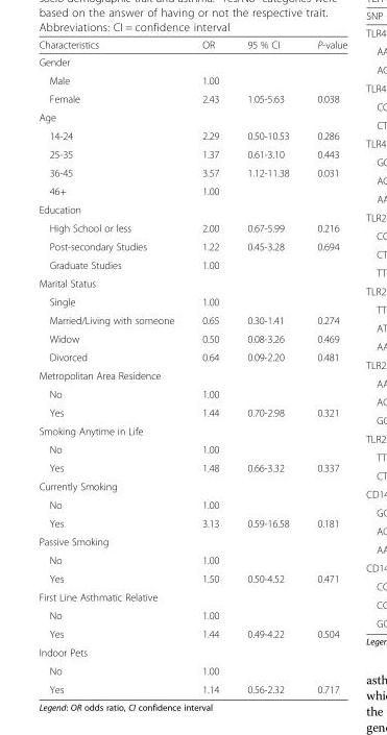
<table><thead><tr><td>Characteristics</td><td>OR</td><td>95 % CI</td><td>P-value</td></tr></thead><tbody><tr><td colspan="4">Gender</td></tr><tr><td>Male</td><td>1.00</td><td></td><td></td></tr><tr><td>Female</td><td>2.43</td><td>1.05-5.63</td><td>0.038</td></tr><tr><td colspan="4">Age</td></tr><tr><td>14-24</td><td>2.29</td><td>0.50-10.53</td><td>0.286</td></tr><tr><td>25-35</td><td>1.37</td><td>0.61-3.10</td><td>0.443</td></tr><tr><td>36-45</td><td>3.57</td><td>1.12-11.38</td><td>0.031</td></tr><tr><td>46+</td><td>1.00</td><td></td><td></td></tr><tr><td colspan="4">Education</td></tr><tr><td>High School or less</td><td>2.00</td><td>0.67-5.99</td><td>0.216</td></tr><tr><td>Post-secondary Studies</td><td>1.22</td><td>0.45-3.28</td><td>0.694</td></tr><tr><td>Graduate Studies</td><td>1.00</td><td></td><td></td></tr><tr><td colspan="4">Marital Status</td></tr><tr><td>Single</td><td>1.00</td><td></td><td></td></tr><tr><td>Married/Living with someone</td><td>0.65</td><td>0.30-1.41</td><td>0.274</td></tr><tr><td>Widow</td><td>0.50</td><td>0.08-3.26</td><td>0.469</td></tr><tr><td>Divorced</td><td>0.64</td><td>0.09-2.20</td><td>0.481</td></tr><tr><td colspan="4">Metropolitan Area Residence</td></tr><tr><td>No</td><td>1.00</td><td></td><td></td></tr><tr><td>Yes</td><td>1.44</td><td>0.70-2.98</td><td>0.321</td></tr><tr><td colspan="4">Smoking Anytime in Life</td></tr><tr><td>No</td><td>1.00</td><td></td><td></td></tr><tr><td>Yes</td><td>1.48</td><td>0.66-3.32</td><td>0.337</td></tr><tr><td colspan="4">Currently Smoking</td></tr><tr><td>No</td><td>1.00</td><td></td><td></td></tr><tr><td>Yes</td><td>3.13</td><td>0.59-16.58</td><td>0.181</td></tr><tr><td colspan="4">Passive Smoking</td></tr><tr><td>No</td><td>1.00</td><td></td><td></td></tr><tr><td>Yes</td><td>1.50</td><td>0.50-4.52</td><td>0.471</td></tr><tr><td colspan="4">First Line Asthmatic Relative</td></tr><tr><td>No</td><td>1.00</td><td></td><td></td></tr><tr><td>Yes</td><td>1.44</td><td>0.49-4.22</td><td>0.504</td></tr><tr><td colspan="4">Indoor Pets</td></tr><tr><td>No</td><td>1.00</td><td></td><td></td></tr><tr><td>Yes</td><td>1.14</td><td>0.56-2.32</td><td>0.717</td></tr></tbody></table>